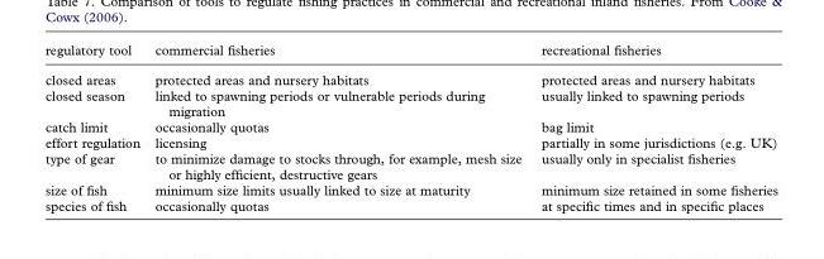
<table><thead><tr><td>regulatory tool</td><td>commercial fisheries</td><td>recreational fisheries</td></tr></thead><tbody><tr><td>closed areas</td><td>protected areas and nursery habitats</td><td>protected areas and nursery habitats</td></tr><tr><td>closed season</td><td>linked to spawning periods or vulnerable periods during migration</td><td>usually linked to spawning periods</td></tr><tr><td>catch limit</td><td>occasionally quotas</td><td>bag limit</td></tr><tr><td>effort regulation</td><td>licensing</td><td>partially in some jurisdictions (e.g. UK)</td></tr><tr><td>type of gear</td><td>to minimize damage to stocks through, for example, mesh size or highly efficient, destructive gears</td><td>usually only in specialist fisheries</td></tr><tr><td>size of fish</td><td>minimum size limits usually linked to size at maturity</td><td>minimum size retained in some fisheries</td></tr><tr><td>species of fish</td><td>occasionally quotas</td><td>at specific times and in specific places</td></tr></tbody></table>